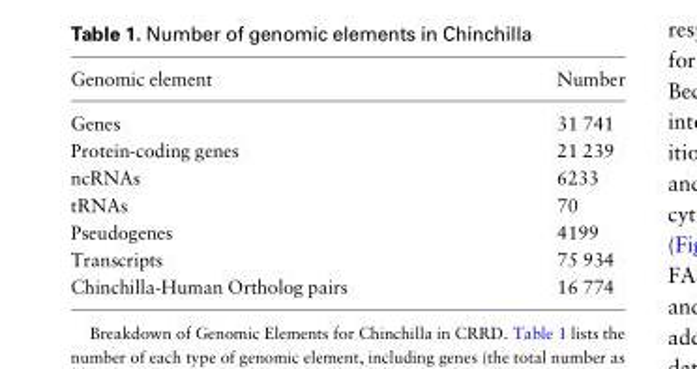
<table><thead><tr><td>Genomic element</td><td>Number</td></tr></thead><tbody><tr><td>Genes</td><td>31 741</td></tr><tr><td>Protein-coding genes</td><td>21 239</td></tr><tr><td>ncRNAs</td><td>6233</td></tr><tr><td>tRNAs</td><td>70</td></tr><tr><td>Pseudogenes</td><td>4199</td></tr><tr><td>Transcripts</td><td>75 934</td></tr><tr><td>Chinchilla-Human Ortholog pairs</td><td>16 774</td></tr></tbody></table>